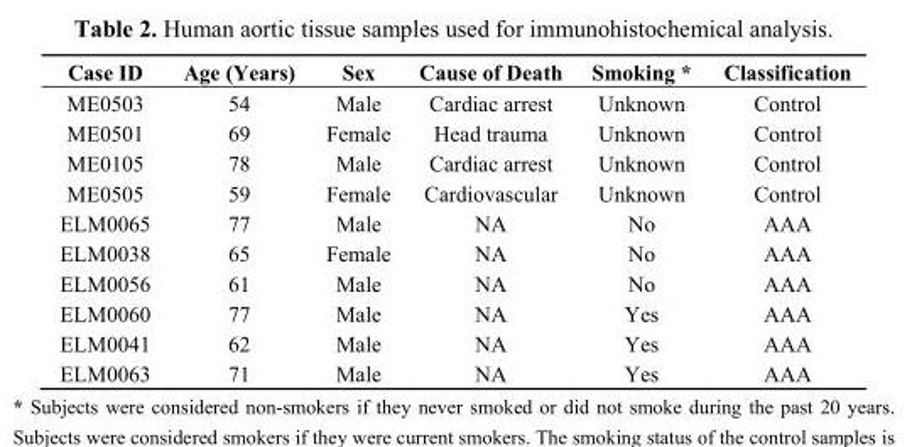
<table><thead><tr><td>Case ID</td><td>Age (Years)</td><td>Sex</td><td>Cause of Death</td><td>Smoking *</td><td>Classification</td></tr></thead><tbody><tr><td>ME0503</td><td>54</td><td>Male</td><td>Cardiac arrest</td><td>Unknown</td><td>Control</td></tr><tr><td>ME0501</td><td>69</td><td>Female</td><td>Head trauma</td><td>Unknown</td><td>Control</td></tr><tr><td>ME0105</td><td>78</td><td>Male</td><td>Cardiac arrest</td><td>Unknown</td><td>Control</td></tr><tr><td>ME0505</td><td>59</td><td>Female</td><td>Cardiovascular</td><td>Unknown</td><td>Control</td></tr><tr><td>ELM0065</td><td>77</td><td>Male</td><td>NA</td><td>No</td><td>AAA</td></tr><tr><td>ELM0038</td><td>65</td><td>Female</td><td>NA</td><td>No</td><td>AAA</td></tr><tr><td>ELM0056</td><td>61</td><td>Male</td><td>NA</td><td>No</td><td>AAA</td></tr><tr><td>ELM0060</td><td>77</td><td>Male</td><td>NA</td><td>Yes</td><td>AAA</td></tr><tr><td>ELM0041</td><td>62</td><td>Male</td><td>NA</td><td>Yes</td><td>AAA</td></tr><tr><td>ELM0063</td><td>71</td><td>Male</td><td>NA</td><td>Yes</td><td>AAA</td></tr></tbody></table>